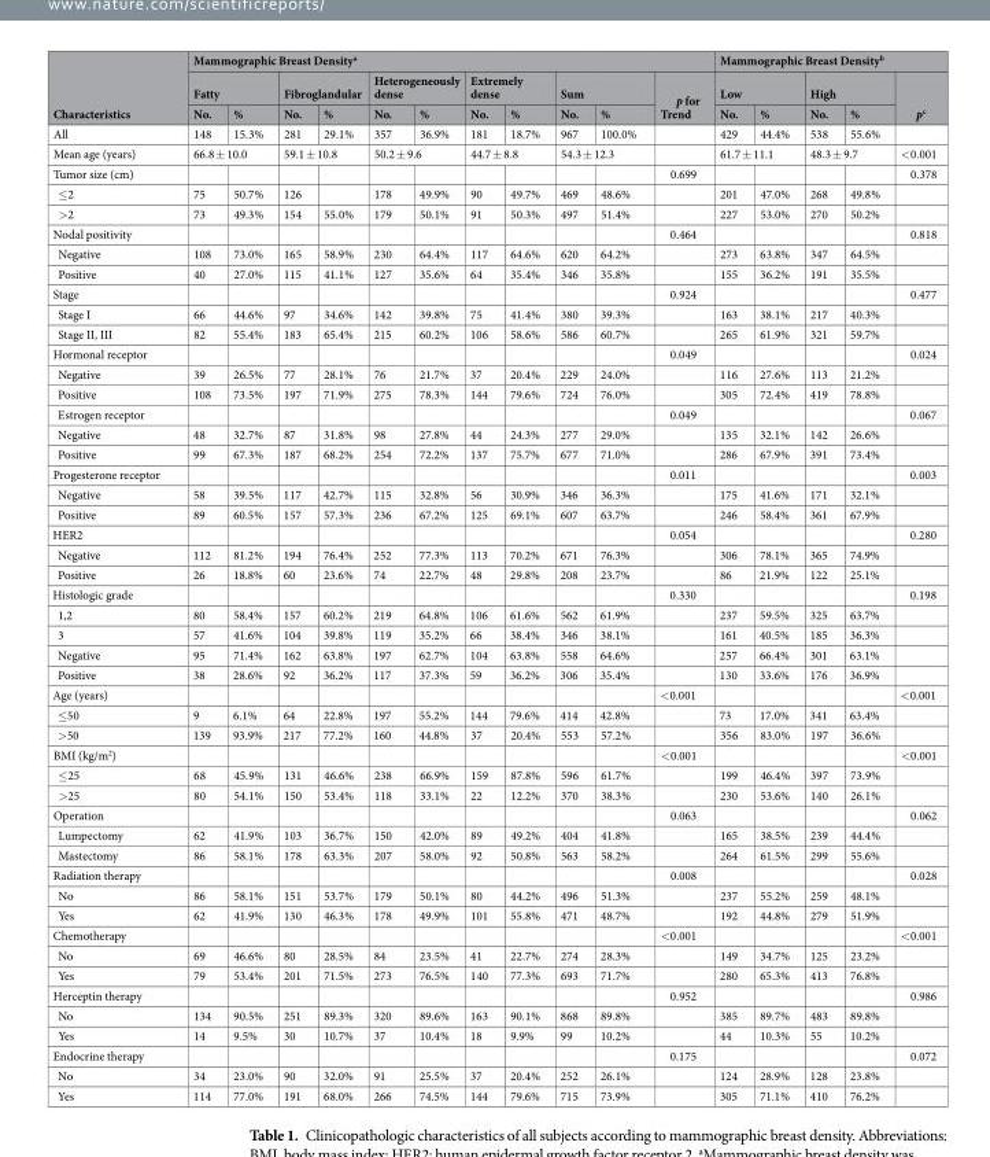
<table><thead><tr><td rowspan="3">Characteristics</td><td colspan="11">Mammographic Breast Density<sup>a</sup></td><td colspan="5">Mammographic Breast Density<sup>b</sup></td></tr><tr><td colspan="2">Fatty</td><td colspan="2">Fibroglandular</td><td colspan="2">Heterogeneously dense</td><td colspan="2">Extremely dense</td><td colspan="2">Sum</td><td rowspan="2">p for Trend</td><td colspan="2">Low</td><td colspan="2">High</td><td rowspan="2">p<sup>c</sup></td></tr><tr><td>No.</td><td>%</td><td>No.</td><td>%</td><td>No.</td><td>%</td><td>No.</td><td>%</td><td>No.</td><td>%</td><td>No.</td><td>%</td><td>No.</td><td>%</td></tr></thead><tbody><tr><td>All</td><td>148</td><td>15.3%</td><td>281</td><td>29.1%</td><td>357</td><td>36.9%</td><td>181</td><td>18.7%</td><td>967</td><td>100.0%</td><td></td><td>429</td><td>44.4%</td><td>538</td><td>55.6%</td><td></td></tr><tr><td>Mean age (years)</td><td colspan="2">66.8 ± 10.0</td><td colspan="2">59.1 ± 10.8</td><td colspan="2">50.2 ± 9.6</td><td colspan="2">44.7 ± 8.8</td><td colspan="2">54.3 ± 12.3</td><td></td><td colspan="2">61.7 ± 11.1</td><td colspan="2">48.3 ± 9.7</td><td>&lt;0.001</td></tr><tr><td>Tumor size (cm)</td><td></td><td></td><td></td><td></td><td></td><td></td><td></td><td></td><td></td><td></td><td>0.699</td><td></td><td></td><td></td><td></td><td>0.378</td></tr><tr><td>≤2</td><td>75</td><td>50.7%</td><td>126</td><td></td><td>178</td><td>49.9%</td><td>90</td><td>49.7%</td><td>469</td><td>48.6%</td><td></td><td>201</td><td>47.0%</td><td>268</td><td>49.8%</td><td></td></tr><tr><td>&gt;2</td><td>73</td><td>49.3%</td><td>154</td><td>55.0%</td><td>179</td><td>50.1%</td><td>91</td><td>50.3%</td><td>497</td><td>51.4%</td><td></td><td>227</td><td>53.0%</td><td>270</td><td>50.2%</td><td></td></tr><tr><td>Nodal positivity</td><td></td><td></td><td></td><td></td><td></td><td></td><td></td><td></td><td></td><td></td><td>0.464</td><td></td><td></td><td></td><td></td><td>0.818</td></tr><tr><td>Negative</td><td>108</td><td>73.0%</td><td>165</td><td>58.9%</td><td>230</td><td>64.4%</td><td>117</td><td>64.6%</td><td>620</td><td>64.2%</td><td></td><td>273</td><td>63.8%</td><td>347</td><td>64.5%</td><td></td></tr><tr><td>Positive</td><td>40</td><td>27.0%</td><td>115</td><td>41.1%</td><td>127</td><td>35.6%</td><td>64</td><td>35.4%</td><td>346</td><td>35.8%</td><td></td><td>155</td><td>36.2%</td><td>191</td><td>35.5%</td><td></td></tr><tr><td>Stage</td><td></td><td></td><td></td><td></td><td></td><td></td><td></td><td></td><td></td><td></td><td>0.924</td><td></td><td></td><td></td><td></td><td>0.477</td></tr><tr><td>Stage I</td><td>66</td><td>44.6%</td><td>97</td><td>34.6%</td><td>142</td><td>39.8%</td><td>75</td><td>41.4%</td><td>380</td><td>39.3%</td><td></td><td>163</td><td>38.1%</td><td>217</td><td>40.3%</td><td></td></tr><tr><td>Stage II, III</td><td>82</td><td>55.4%</td><td>183</td><td>65.4%</td><td>215</td><td>60.2%</td><td>106</td><td>58.6%</td><td>586</td><td>60.7%</td><td></td><td>265</td><td>61.9%</td><td>321</td><td>59.7%</td><td></td></tr><tr><td>Hormonal receptor</td><td></td><td></td><td></td><td></td><td></td><td></td><td></td><td></td><td></td><td></td><td>0.049</td><td></td><td></td><td></td><td></td><td>0.024</td></tr><tr><td>Negative</td><td>39</td><td>26.5%</td><td>77</td><td>28.1%</td><td>76</td><td>21.7%</td><td>37</td><td>20.4%</td><td>229</td><td>24.0%</td><td></td><td>116</td><td>27.6%</td><td>113</td><td>21.2%</td><td></td></tr><tr><td>Positive</td><td>108</td><td>73.5%</td><td>197</td><td>71.9%</td><td>275</td><td>78.3%</td><td>144</td><td>79.6%</td><td>724</td><td>76.0%</td><td></td><td>305</td><td>72.4%</td><td>419</td><td>78.8%</td><td></td></tr><tr><td>Estrogen receptor</td><td></td><td></td><td></td><td></td><td></td><td></td><td></td><td></td><td></td><td></td><td>0.049</td><td></td><td></td><td></td><td></td><td>0.067</td></tr><tr><td>Negative</td><td>48</td><td>32.7%</td><td>87</td><td>31.8%</td><td>98</td><td>27.8%</td><td>44</td><td>24.3%</td><td>277</td><td>29.0%</td><td></td><td>135</td><td>32.1%</td><td>142</td><td>26.6%</td><td></td></tr><tr><td>Positive</td><td>99</td><td>67.3%</td><td>187</td><td>68.2%</td><td>254</td><td>72.2%</td><td>137</td><td>75.7%</td><td>677</td><td>71.0%</td><td></td><td>286</td><td>67.9%</td><td>391</td><td>73.4%</td><td></td></tr><tr><td>Progesterone receptor</td><td></td><td></td><td></td><td></td><td></td><td></td><td></td><td></td><td></td><td></td><td>0.011</td><td></td><td></td><td></td><td></td><td>0.003</td></tr><tr><td>Negative</td><td>58</td><td>39.5%</td><td>117</td><td>42.7%</td><td>115</td><td>32.8%</td><td>56</td><td>30.9%</td><td>346</td><td>36.3%</td><td></td><td>175</td><td>41.6%</td><td>171</td><td>32.1%</td><td></td></tr><tr><td>Positive</td><td>89</td><td>60.5%</td><td>157</td><td>57.3%</td><td>236</td><td>67.2%</td><td>125</td><td>69.1%</td><td>607</td><td>63.7%</td><td></td><td>246</td><td>58.4%</td><td>361</td><td>67.9%</td><td></td></tr><tr><td>HER2</td><td></td><td></td><td></td><td></td><td></td><td></td><td></td><td></td><td></td><td></td><td>0.054</td><td></td><td></td><td></td><td></td><td>0.280</td></tr><tr><td>Negative</td><td>112</td><td>81.2%</td><td>194</td><td>76.4%</td><td>252</td><td>77.3%</td><td>113</td><td>70.2%</td><td>671</td><td>76.3%</td><td></td><td>306</td><td>78.1%</td><td>365</td><td>74.9%</td><td></td></tr><tr><td>Positive</td><td>26</td><td>18.8%</td><td>60</td><td>23.6%</td><td>74</td><td>22.7%</td><td>48</td><td>29.8%</td><td>208</td><td>23.7%</td><td></td><td>86</td><td>21.9%</td><td>122</td><td>25.1%</td><td></td></tr><tr><td>Histologic grade</td><td></td><td></td><td></td><td></td><td></td><td></td><td></td><td></td><td></td><td></td><td>0.330</td><td></td><td></td><td></td><td></td><td>0.198</td></tr><tr><td>1,2</td><td>80</td><td>58.4%</td><td>157</td><td>60.2%</td><td>219</td><td>64.8%</td><td>106</td><td>61.6%</td><td>562</td><td>61.9%</td><td></td><td>237</td><td>59.5%</td><td>325</td><td>63.7%</td><td></td></tr><tr><td>3</td><td>57</td><td>41.6%</td><td>104</td><td>39.8%</td><td>119</td><td>35.2%</td><td>66</td><td>38.4%</td><td>346</td><td>38.1%</td><td></td><td>161</td><td>40.5%</td><td>185</td><td>36.3%</td><td></td></tr><tr><td>Negative</td><td>95</td><td>71.4%</td><td>162</td><td>63.8%</td><td>197</td><td>62.7%</td><td>104</td><td>63.8%</td><td>558</td><td>64.6%</td><td></td><td>257</td><td>66.4%</td><td>301</td><td>63.1%</td><td></td></tr><tr><td>Positive</td><td>38</td><td>28.6%</td><td>92</td><td>36.2%</td><td>117</td><td>37.3%</td><td>59</td><td>36.2%</td><td>306</td><td>35.4%</td><td></td><td>130</td><td>33.6%</td><td>176</td><td>36.9%</td><td></td></tr><tr><td>Age (years)</td><td></td><td></td><td></td><td></td><td></td><td></td><td></td><td></td><td></td><td></td><td>&lt;0.001</td><td></td><td></td><td></td><td></td><td>&lt;0.001</td></tr><tr><td>≤50</td><td>9</td><td>6.1%</td><td>64</td><td>22.8%</td><td>197</td><td>55.2%</td><td>144</td><td>79.6%</td><td>414</td><td>42.8%</td><td></td><td>73</td><td>17.0%</td><td>341</td><td>63.4%</td><td></td></tr><tr><td>&gt;50</td><td>139</td><td>93.9%</td><td>217</td><td>77.2%</td><td>160</td><td>44.8%</td><td>37</td><td>20.4%</td><td>553</td><td>57.2%</td><td></td><td>356</td><td>83.0%</td><td>197</td><td>36.6%</td><td></td></tr><tr><td>BMI (kg/m<sup>2</sup>)</td><td></td><td></td><td></td><td></td><td></td><td></td><td></td><td></td><td></td><td></td><td>&lt;0.001</td><td></td><td></td><td></td><td></td><td>&lt;0.001</td></tr><tr><td>≤25</td><td>68</td><td>45.9%</td><td>131</td><td>46.6%</td><td>238</td><td>66.9%</td><td>159</td><td>87.8%</td><td>596</td><td>61.7%</td><td></td><td>199</td><td>46.4%</td><td>397</td><td>73.9%</td><td></td></tr><tr><td>&gt;25</td><td>80</td><td>54.1%</td><td>150</td><td>53.4%</td><td>118</td><td>33.1%</td><td>22</td><td>12.2%</td><td>370</td><td>38.3%</td><td></td><td>230</td><td>53.6%</td><td>140</td><td>26.1%</td><td></td></tr><tr><td>Operation</td><td></td><td></td><td></td><td></td><td></td><td></td><td></td><td></td><td></td><td></td><td>0.063</td><td></td><td></td><td></td><td></td><td>0.062</td></tr><tr><td>Lumpectomy</td><td>62</td><td>41.9%</td><td>103</td><td>36.7%</td><td>150</td><td>42.0%</td><td>89</td><td>49.2%</td><td>404</td><td>41.8%</td><td></td><td>165</td><td>38.5%</td><td>239</td><td>44.4%</td><td></td></tr><tr><td>Mastectomy</td><td>86</td><td>58.1%</td><td>178</td><td>63.3%</td><td>207</td><td>58.0%</td><td>92</td><td>50.8%</td><td>563</td><td>58.2%</td><td></td><td>264</td><td>61.5%</td><td>299</td><td>55.6%</td><td></td></tr><tr><td>Radiation therapy</td><td></td><td></td><td></td><td></td><td></td><td></td><td></td><td></td><td></td><td></td><td>0.008</td><td></td><td></td><td></td><td></td><td>0.028</td></tr><tr><td>No</td><td>86</td><td>58.1%</td><td>151</td><td>53.7%</td><td>179</td><td>50.1%</td><td>80</td><td>44.2%</td><td>496</td><td>51.3%</td><td></td><td>237</td><td>55.2%</td><td>259</td><td>48.1%</td><td></td></tr><tr><td>Yes</td><td>62</td><td>41.9%</td><td>130</td><td>46.3%</td><td>178</td><td>49.9%</td><td>101</td><td>55.8%</td><td>471</td><td>48.7%</td><td></td><td>192</td><td>44.8%</td><td>279</td><td>51.9%</td><td></td></tr><tr><td>Chemotherapy</td><td></td><td></td><td></td><td></td><td></td><td></td><td></td><td></td><td></td><td></td><td>&lt;0.001</td><td></td><td></td><td></td><td></td><td>&lt;0.001</td></tr><tr><td>No</td><td>69</td><td>46.6%</td><td>80</td><td>28.5%</td><td>84</td><td>23.5%</td><td>41</td><td>22.7%</td><td>274</td><td>28.3%</td><td></td><td>149</td><td>34.7%</td><td>125</td><td>23.2%</td><td></td></tr><tr><td>Yes</td><td>79</td><td>53.4%</td><td>201</td><td>71.5%</td><td>273</td><td>76.5%</td><td>140</td><td>77.3%</td><td>693</td><td>71.7%</td><td></td><td>280</td><td>65.3%</td><td>413</td><td>76.8%</td><td></td></tr><tr><td>Herceptin therapy</td><td></td><td></td><td></td><td></td><td></td><td></td><td></td><td></td><td></td><td></td><td>0.952</td><td></td><td></td><td></td><td></td><td>0.986</td></tr><tr><td>No</td><td>134</td><td>90.5%</td><td>251</td><td>89.3%</td><td>320</td><td>89.6%</td><td>163</td><td>90.1%</td><td>868</td><td>89.8%</td><td></td><td>385</td><td>89.7%</td><td>483</td><td>89.8%</td><td></td></tr><tr><td>Yes</td><td>14</td><td>9.5%</td><td>30</td><td>10.7%</td><td>37</td><td>10.4%</td><td>18</td><td>9.9%</td><td>99</td><td>10.2%</td><td></td><td>44</td><td>10.3%</td><td>55</td><td>10.2%</td><td></td></tr><tr><td>Endocrine therapy</td><td></td><td></td><td></td><td></td><td></td><td></td><td></td><td></td><td></td><td></td><td>0.175</td><td></td><td></td><td></td><td></td><td>0.072</td></tr><tr><td>No</td><td>34</td><td>23.0%</td><td>90</td><td>32.0%</td><td>91</td><td>25.5%</td><td>37</td><td>20.4%</td><td>252</td><td>26.1%</td><td></td><td>124</td><td>28.9%</td><td>128</td><td>23.8%</td><td></td></tr><tr><td>Yes</td><td>114</td><td>77.0%</td><td>191</td><td>68.0%</td><td>266</td><td>74.5%</td><td>144</td><td>79.6%</td><td>715</td><td>73.9%</td><td></td><td>305</td><td>71.1%</td><td>410</td><td>76.2%</td><td></td></tr></tbody></table>